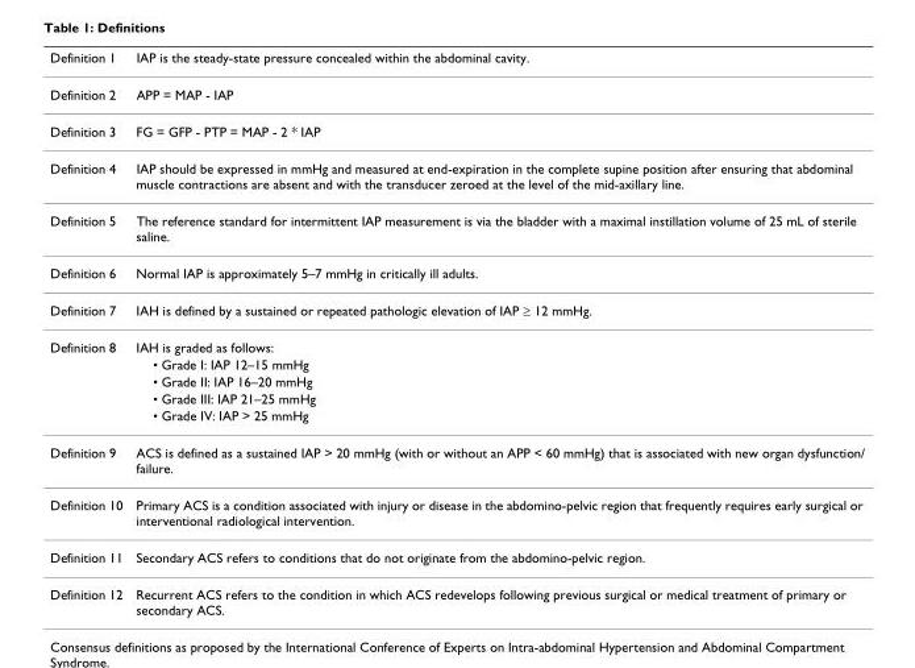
<table><thead><tr><td>Definition 1</td><td>IAP is the steady-state pressure concealed within the abdominal cavity.</td></tr></thead><tbody><tr><td>Definition 2</td><td>APP = MAP - IAP</td></tr><tr><td>Definition 3</td><td>FG = GFP - PTP = MAP - 2 * IAP</td></tr><tr><td>Definition 4</td><td>IAP should be expressed in mmHg and measured at end-expiration in the complete supine position after ensuring that abdominal muscle contractions are absent and with the transducer zeroed at the level of the mid-axillary line.</td></tr><tr><td>Definition 5</td><td>The reference standard for intermittent IAP measurement is via the bladder with a maximal instillation volume of 25 mL of sterile saline.</td></tr><tr><td>Definition 6</td><td>Normal IAP is approximately 5–7 mmHg in critically ill adults.</td></tr><tr><td>Definition 7</td><td>IAH is defined by a sustained or repeated pathologic elevation of IAP ≥ 12 mmHg.</td></tr><tr><td rowspan="5">Definition 8</td><td>IAH is graded as follows:</td></tr><tr><td>• Grade I: IAP 12–15 mmHg</td></tr><tr><td>• Grade II: IAP 16–20 mmHg</td></tr><tr><td>• Grade III: IAP 21–25 mmHg</td></tr><tr><td>• Grade IV: IAP &gt; 25 mmHg</td></tr><tr><td>Definition 9</td><td>ACS is defined as a sustained IAP &gt; 20 mmHg (with or without an APP &lt; 60 mmHg) that is associated with new organ dysfunction/ failure.</td></tr><tr><td>Definition 10</td><td>Primary ACS is a condition associated with injury or disease in the abdomino-pelvic region that frequently requires early surgical or interventional radiological intervention.</td></tr><tr><td>Definition 11</td><td>Secondary ACS refers to conditions that do not originate from the abdomino-pelvic region.</td></tr><tr><td>Definition 12</td><td>Recurrent ACS refers to the condition in which ACS redevelops following previous surgical or medical treatment of primary or secondary ACS.</td></tr></tbody></table>